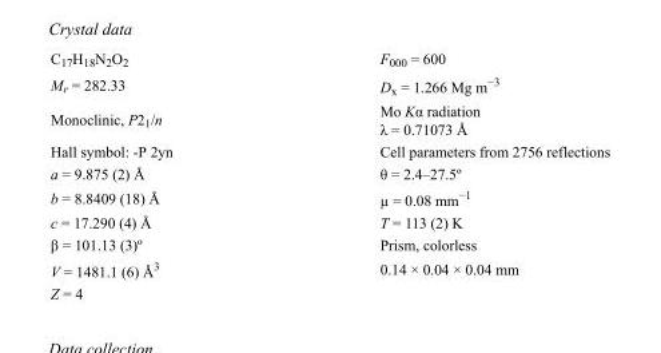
<table><tbody><tr><td>C<sub>17</sub>H<sub>18</sub>N<sub>2</sub>O<sub>2</sub></td><td>F<sub>000</sub> = 600</td></tr><tr><td>M<sub>r</sub> = 282.33</td><td>D<sub>x</sub> = 1.266 Mg m<sup>−3</sup></td></tr><tr><td>Monoclinic, P2<sub>1</sub>/n</td><td>Mo Kα radiation λ = 0.71073 Å</td></tr><tr><td>Hall symbol: -P 2yn</td><td>Cell parameters from 2756 reflections</td></tr><tr><td>a = 9.875 (2) Å</td><td>θ = 2.4–27.5º</td></tr><tr><td>b = 8.8409 (18) Å</td><td>µ = 0.08 mm<sup>−1</sup></td></tr><tr><td>c = 17.290 (4) Å</td><td>T = 113 (2) K</td></tr><tr><td>β = 101.13 (3)º</td><td>Prism, colorless</td></tr><tr><td>V = 1481.1 (6) Å<sup>3</sup></td><td>0.14 × 0.04 × 0.04 mm</td></tr><tr><td>Z = 4</td><td></td></tr></tbody></table>